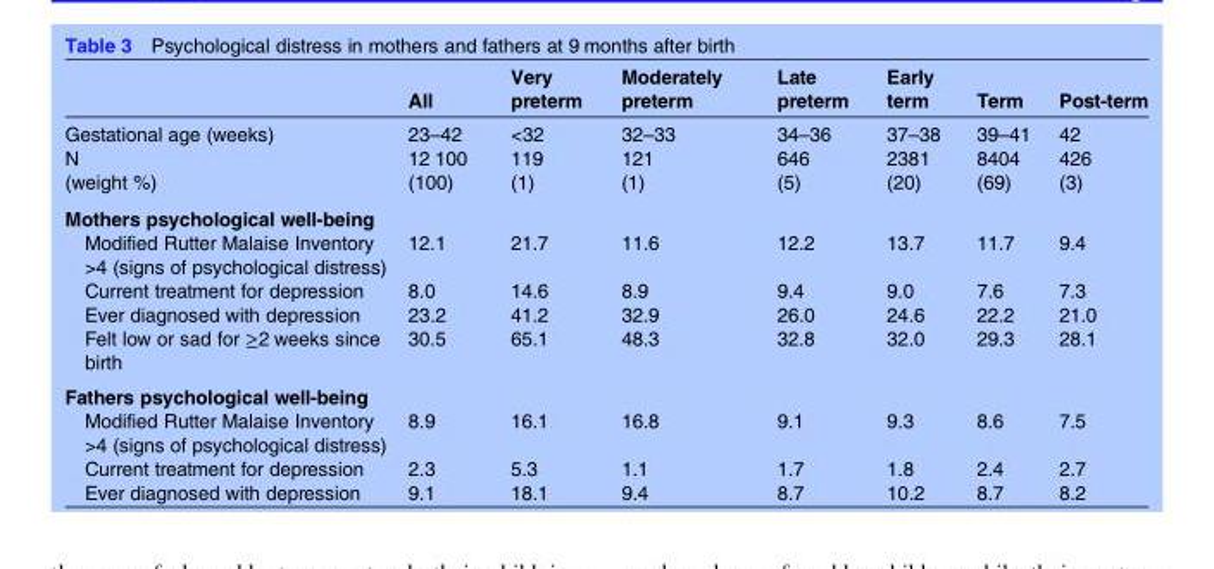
<table><thead><tr><td></td><td>All</td><td>Very preterm</td><td>Moderately preterm</td><td>Late preterm</td><td>Early term</td><td>Term</td><td>Post-term</td></tr></thead><tbody><tr><td>Gestational age (weeks)</td><td>23–42</td><td>&lt;32</td><td>32–33</td><td>34–36</td><td>37–38</td><td>39–41</td><td>42</td></tr><tr><td>N (weight %)</td><td>12 100 (100)</td><td>119 (1)</td><td>121 (1)</td><td>646 (5)</td><td>2381 (20)</td><td>8404 (69)</td><td>426 (3)</td></tr><tr><td colspan="8">Mothers psychological well-being</td></tr><tr><td>Modified Rutter Malaise Inventory &gt;4 (signs of psychological distress)</td><td>12.1</td><td>21.7</td><td>11.6</td><td>12.2</td><td>13.7</td><td>11.7</td><td>9.4</td></tr><tr><td>Current treatment for depression</td><td>8.0</td><td>14.6</td><td>8.9</td><td>9.4</td><td>9.0</td><td>7.6</td><td>7.3</td></tr><tr><td>Ever diagnosed with depression</td><td>23.2</td><td>41.2</td><td>32.9</td><td>26.0</td><td>24.6</td><td>22.2</td><td>21.0</td></tr><tr><td>Felt low or sad for ≥2 weeks since birth</td><td>30.5</td><td>65.1</td><td>48.3</td><td>32.8</td><td>32.0</td><td>29.3</td><td>28.1</td></tr><tr><td colspan="8">Fathers psychological well-being</td></tr><tr><td>Modified Rutter Malaise Inventory &gt;4 (signs of psychological distress)</td><td>8.9</td><td>16.1</td><td>16.8</td><td>9.1</td><td>9.3</td><td>8.6</td><td>7.5</td></tr><tr><td>Current treatment for depression</td><td>2.3</td><td>5.3</td><td>1.1</td><td>1.7</td><td>1.8</td><td>2.4</td><td>2.7</td></tr><tr><td>Ever diagnosed with depression</td><td>9.1</td><td>18.1</td><td>9.4</td><td>8.7</td><td>10.2</td><td>8.7</td><td>8.2</td></tr></tbody></table>